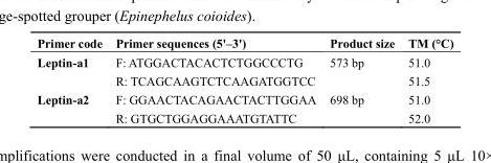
<table><thead><tr><td>Primer code</td><td>Primer sequences (5&#x27;–3&#x27;)</td><td>Product size</td><td>TM (°C)</td></tr></thead><tbody><tr><td rowspan="2">Leptin-a1</td><td>F: ATGGACTACACTCTGGCCCTG</td><td>573 bp</td><td>51.0</td></tr><tr><td>R: TCAGCAAGTCTCAAGATGGTCC</td><td></td><td>51.5</td></tr><tr><td rowspan="2">Leptin-a2</td><td>F: GGAACTACAGAACTACTTGGAA</td><td>698 bp</td><td>51.0</td></tr><tr><td>R: GTGCTGGAGGAAATGTATTC</td><td></td><td>52.0</td></tr></tbody></table>